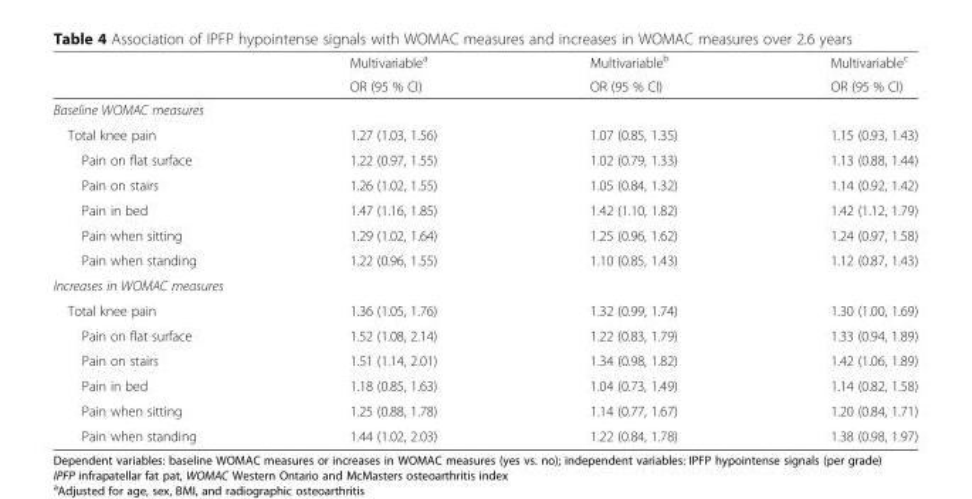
<table><thead><tr><td rowspan="2"></td><td rowspan="2">Multivariable<sup>a</sup> OR (95 % CI)</td><td rowspan="2">Multivariable<sup>b</sup> OR (95 % CI)</td><td rowspan="2">Multivariable<sup>c</sup> OR (95 % CI)</td></tr><tr></tr></thead><tbody><tr><td colspan="4">Baseline WOMAC measures</td></tr><tr><td>Total knee pain</td><td>1.27 (1.03, 1.56)</td><td>1.07 (0.85, 1.35)</td><td>1.15 (0.93, 1.43)</td></tr><tr><td>Pain on flat surface</td><td>1.22 (0.97, 1.55)</td><td>1.02 (0.79, 1.33)</td><td>1.13 (0.88, 1.44)</td></tr><tr><td>Pain on stairs</td><td>1.26 (1.02, 1.55)</td><td>1.05 (0.84, 1.32)</td><td>1.14 (0.92, 1.42)</td></tr><tr><td>Pain in bed</td><td>1.47 (1.16, 1.85)</td><td>1.42 (1.10, 1.82)</td><td>1.42 (1.12, 1.79)</td></tr><tr><td>Pain when sitting</td><td>1.29 (1.02, 1.64)</td><td>1.25 (0.96, 1.62)</td><td>1.24 (0.97, 1.58)</td></tr><tr><td>Pain when standing</td><td>1.22 (0.96, 1.55)</td><td>1.10 (0.85, 1.43)</td><td>1.12 (0.87, 1.43)</td></tr><tr><td colspan="4">Increases in WOMAC measures</td></tr><tr><td>Total knee pain</td><td>1.36 (1.05, 1.76)</td><td>1.32 (0.99, 1.74)</td><td>1.30 (1.00, 1.69)</td></tr><tr><td>Pain on flat surface</td><td>1.52 (1.08, 2.14)</td><td>1.22 (0.83, 1.79)</td><td>1.33 (0.94, 1.89)</td></tr><tr><td>Pain on stairs</td><td>1.51 (1.14, 2.01)</td><td>1.34 (0.98, 1.82)</td><td>1.42 (1.06, 1.89)</td></tr><tr><td>Pain in bed</td><td>1.18 (0.85, 1.63)</td><td>1.04 (0.73, 1.49)</td><td>1.14 (0.82, 1.58)</td></tr><tr><td>Pain when sitting</td><td>1.25 (0.88, 1.78)</td><td>1.14 (0.77, 1.67)</td><td>1.20 (0.84, 1.71)</td></tr><tr><td>Pain when standing</td><td>1.44 (1.02, 2.03)</td><td>1.22 (0.84, 1.78)</td><td>1.38 (0.98, 1.97)</td></tr></tbody></table>